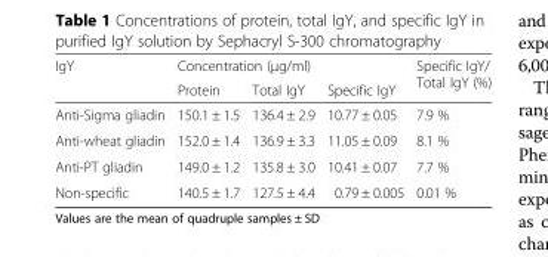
<table><thead><tr><td rowspan="2">IgY</td><td colspan="3">Concentration (μg/ml)</td><td rowspan="2">Specific IgY/ Total IgY (%)</td></tr><tr><td>Protein</td><td>Total IgY</td><td>Specific IgY</td></tr></thead><tbody><tr><td>Anti-Sigma gliadin</td><td>150.1 ± 1.5</td><td>136.4 ± 2.9</td><td>10.77 ± 0.05</td><td>7.9 %</td></tr><tr><td>Anti-wheat gliadin</td><td>152.0 ± 1.4</td><td>136.9 ± 3.3</td><td>11.05 ± 0.09</td><td>8.1 %</td></tr><tr><td>Anti-PT gliadin</td><td>149.0 ± 1.2</td><td>135.8 ± 3.0</td><td>10.41 ± 0.07</td><td>7.7 %</td></tr><tr><td>Non-specific</td><td>140.5 ± 1.7</td><td>127.5 ± 4.4</td><td>0.79 ± 0.005</td><td>0.01 %</td></tr></tbody></table>